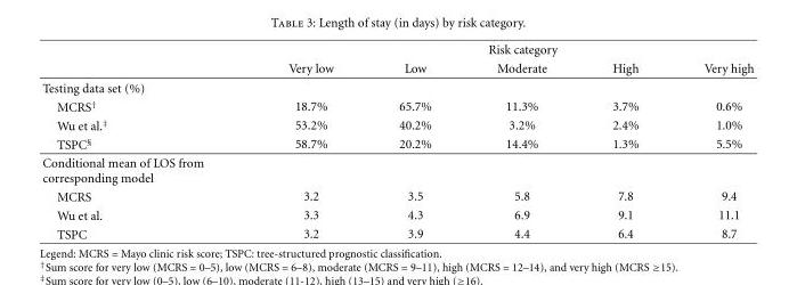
<table><thead><tr><td rowspan="2"></td><td colspan="5">Risk category</td></tr><tr><td>Very low</td><td>Low</td><td>Moderate</td><td>High</td><td>Very high</td></tr></thead><tbody><tr><td colspan="6">Testing data set (%)</td></tr><tr><td>MCRS<sup>†</sup></td><td>18.7%</td><td>65.7%</td><td>11.3%</td><td>3.7%</td><td>0.6%</td></tr><tr><td>Wu et al.<sup>‡</sup></td><td>53.2%</td><td>40.2%</td><td>3.2%</td><td>2.4%</td><td>1.0%</td></tr><tr><td>TSPC<sup>§</sup></td><td>58.7%</td><td>20.2%</td><td>14.4%</td><td>1.3%</td><td>5.5%</td></tr><tr><td colspan="6">Conditional mean of LOS from corresponding model</td></tr><tr><td>MCRS</td><td>3.2</td><td>3.5</td><td>5.8</td><td>7.8</td><td>9.4</td></tr><tr><td>Wu et al.</td><td>3.3</td><td>4.3</td><td>6.9</td><td>9.1</td><td>11.1</td></tr><tr><td>TSPC</td><td>3.2</td><td>3.9</td><td>4.4</td><td>6.4</td><td>8.7</td></tr></tbody></table>